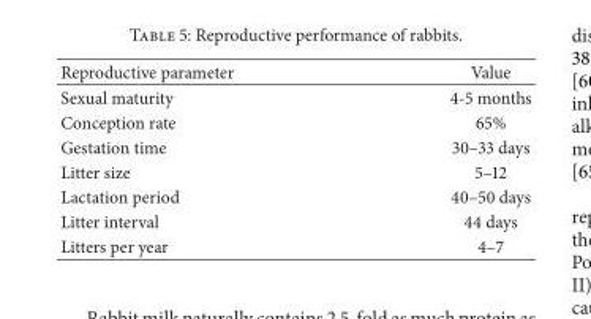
<table><thead><tr><td>Reproductive parameter</td><td>Value</td></tr></thead><tbody><tr><td>Sexual maturity</td><td>4-5 months</td></tr><tr><td>Conception rate</td><td>65%</td></tr><tr><td>Gestation time</td><td>30–33 days</td></tr><tr><td>Litter size</td><td>5–12</td></tr><tr><td>Lactation period</td><td>40–50 days</td></tr><tr><td>Litter interval</td><td>44 days</td></tr><tr><td>Litters per year</td><td>4–7</td></tr></tbody></table>